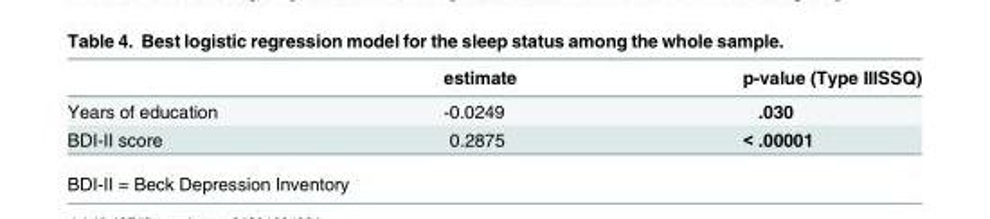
<table><thead><tr><td></td><td>estimate</td><td>p-value (Type IIISSQ)</td></tr></thead><tbody><tr><td>Years of education</td><td>-0.0249</td><td>.030</td></tr><tr><td>BDI-II score</td><td>0.2875</td><td>&lt; .00001</td></tr></tbody></table>